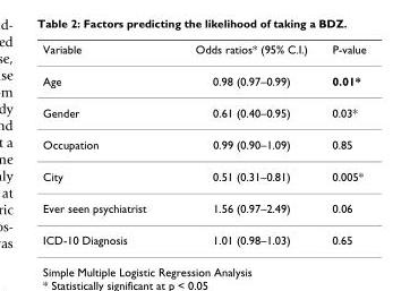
<table><thead><tr><td>Variable</td><td>Odds ratios* (95% C.I.)</td><td>P-value</td></tr></thead><tbody><tr><td>Age</td><td>0.98 (0.97–0.99)</td><td>0.01*</td></tr><tr><td>Gender</td><td>0.61 (0.40–0.95)</td><td>0.03*</td></tr><tr><td>Occupation</td><td>0.99 (0.90–1.09)</td><td>0.85</td></tr><tr><td>City</td><td>0.51 (0.31–0.81)</td><td>0.005*</td></tr><tr><td>Ever seen psychiatrist</td><td>1.56 (0.97–2.49)</td><td>0.06</td></tr><tr><td>ICD-10 Diagnosis</td><td>1.01 (0.98–1.03)</td><td>0.65</td></tr></tbody></table>